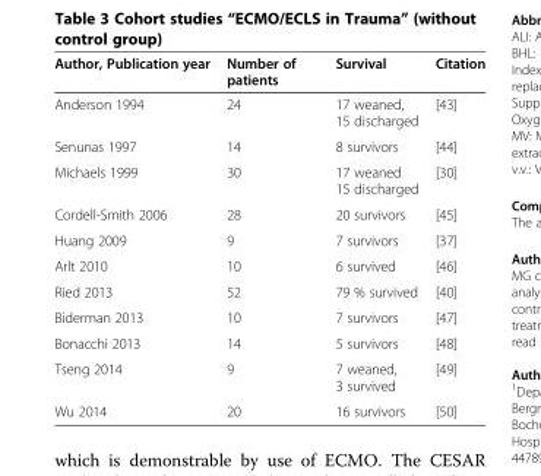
<table><thead><tr><td>Author, Publication year</td><td>Number of patients</td><td>Survival</td><td>Citation</td></tr></thead><tbody><tr><td>Anderson 1994</td><td>24</td><td>17 weaned, 15 discharged</td><td>[43]</td></tr><tr><td>Senunas 1997</td><td>14</td><td>8 survivors</td><td>[44]</td></tr><tr><td>Michaels 1999</td><td>30</td><td>17 weaned 15 discharged</td><td>[30]</td></tr><tr><td>Cordell-Smith 2006</td><td>28</td><td>20 survivors</td><td>[45]</td></tr><tr><td>Huang 2009</td><td>9</td><td>7 survivors</td><td>[37]</td></tr><tr><td>Arlt 2010</td><td>10</td><td>6 survived</td><td>[46]</td></tr><tr><td>Ried 2013</td><td>52</td><td>79 % survived</td><td>[40]</td></tr><tr><td>Biderman 2013</td><td>10</td><td>7 survivors</td><td>[47]</td></tr><tr><td>Bonacchi 2013</td><td>14</td><td>5 survivors</td><td>[48]</td></tr><tr><td>Tseng 2014</td><td>9</td><td>7 weaned, 3 survived</td><td>[49]</td></tr><tr><td>Wu 2014</td><td>20</td><td>16 survivors</td><td>[50]</td></tr></tbody></table>